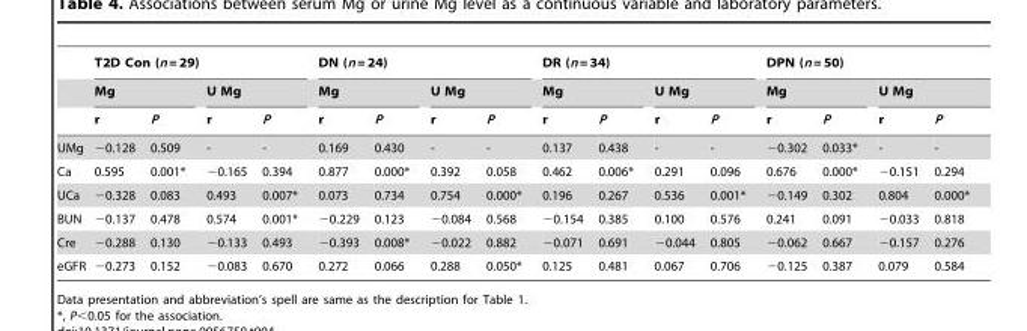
<table><thead><tr><td rowspan="3"></td><td colspan="4">T2D Con (n = 29)</td><td colspan="4">DN (n = 24)</td><td colspan="4">DR (n = 34)</td><td colspan="4">DPN (n = 50)</td></tr><tr><td colspan="2">Mg</td><td colspan="2">U Mg</td><td colspan="2">Mg</td><td colspan="2">U Mg</td><td colspan="2">Mg</td><td colspan="2">U Mg</td><td colspan="2">Mg</td><td colspan="2">U Mg</td></tr><tr><td>r</td><td>P</td><td>r</td><td>P</td><td>r</td><td>P</td><td>r</td><td>P</td><td>r</td><td>P</td><td>r</td><td>P</td><td>r</td><td>P</td><td>r</td><td>P</td></tr></thead><tbody><tr><td>UMg</td><td>−0.128</td><td>0.509</td><td>-</td><td>-</td><td>0.169</td><td>0.430</td><td>-</td><td>-</td><td>0.137</td><td>0.438</td><td>-</td><td>-</td><td>−0.302</td><td>0.033*</td><td>-</td><td>-</td></tr><tr><td>Ca</td><td>0.595</td><td>0.001*</td><td>−0.165</td><td>0.394</td><td>0.877</td><td>0.000*</td><td>0.392</td><td>0.058</td><td>0.462</td><td>0.006*</td><td>0.291</td><td>0.096</td><td>0.676</td><td>0.000*</td><td>−0.151</td><td>0.294</td></tr><tr><td>UCa</td><td>−0.328</td><td>0.083</td><td>0.493</td><td>0.007*</td><td>0.073</td><td>0.734</td><td>0.754</td><td>0.000*</td><td>0.196</td><td>0.267</td><td>0.536</td><td>0.001*</td><td>−0.149</td><td>0.302</td><td>0.804</td><td>0.000*</td></tr><tr><td>BUN</td><td>−0.137</td><td>0.478</td><td>0.574</td><td>0.001*</td><td>−0.229</td><td>0.123</td><td>−0.084</td><td>0.568</td><td>−0.154</td><td>0.385</td><td>0.100</td><td>0.576</td><td>0.241</td><td>0.091</td><td>−0.033</td><td>0.818</td></tr><tr><td>Cre</td><td>−0.288</td><td>0.130</td><td>−0.133</td><td>0.493</td><td>−0.393</td><td>0.008*</td><td>−0.022</td><td>0.882</td><td>−0.071</td><td>0.691</td><td>−0.044</td><td>0.805</td><td>−0.062</td><td>0.667</td><td>−0.157</td><td>0.276</td></tr><tr><td>eGFR</td><td>−0.273</td><td>0.152</td><td>−0.083</td><td>0.670</td><td>0.272</td><td>0.066</td><td>0.288</td><td>0.050*</td><td>0.125</td><td>0.481</td><td>0.067</td><td>0.706</td><td>−0.125</td><td>0.387</td><td>0.079</td><td>0.584</td></tr></tbody></table>